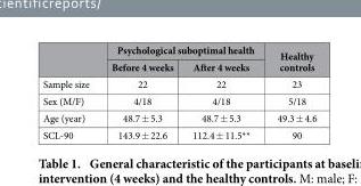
<table><thead><tr><td rowspan="2"></td><td colspan="2">Psychological suboptimal health</td><td rowspan="2">Healthy controls</td></tr><tr><td>Before 4 weeks</td><td>After 4 weeks</td></tr></thead><tbody><tr><td>Sample size</td><td>22</td><td>22</td><td>23</td></tr><tr><td>Sex (M/F)</td><td>4/18</td><td>4/18</td><td>5/18</td></tr><tr><td>Age (year)</td><td>48.7 ± 5.3</td><td>48.7 ± 5.3</td><td>49.3 ± 4.6</td></tr><tr><td>SCL-90</td><td>143.9 ± 22.6</td><td>112.4 ± 11.5**</td><td>90</td></tr></tbody></table>